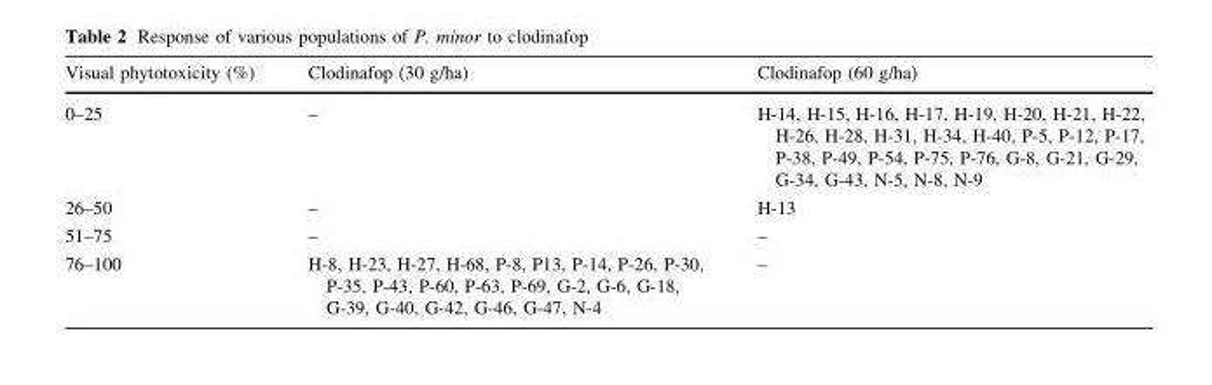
<table><thead><tr><td>Visual phytotoxicity (%)</td><td>Clodinafop (30 g/ha)</td><td>Clodinafop (60 g/ha)</td></tr></thead><tbody><tr><td>0–25</td><td>–</td><td>H-14, H-15, H-16, H-17, H-19, H-20, H-21, H-22, H-26, H-28, H-31, H-34, H-40, P-5, P-12, P-17, P-38, P-49, P-54, P-75, P-76, G-8, G-21, G-29, G-34, G-43, N-5, N-8, N-9</td></tr><tr><td>26–50</td><td>–</td><td>H-13</td></tr><tr><td>51–75</td><td>–</td><td>–</td></tr><tr><td>76–100</td><td>H-8, H-23, H-27, H-68, P-8, P13, P-14, P-26, P-30, P-35, P-43, P-60, P-63, P-69, G-2, G-6, G-18, G-39, G-40, G-42, G-46, G-47, N-4</td><td>–</td></tr></tbody></table>